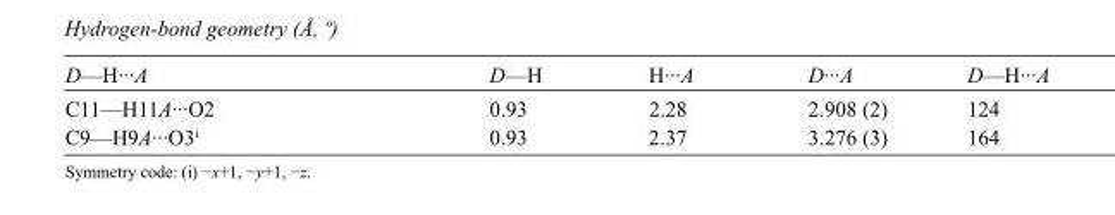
<table><tbody><tr><td>D—H···A</td><td>D—H</td><td>H···A</td><td>D···A</td><td>D—H···A</td></tr><tr><td>C11—H11A···O2</td><td>0.93</td><td>2.28</td><td>2.908 (2)</td><td>124</td></tr><tr><td>C9—H9A···O3<sup>i</sup></td><td>0.93</td><td>2.37</td><td>3.276 (3)</td><td>164</td></tr></tbody></table>